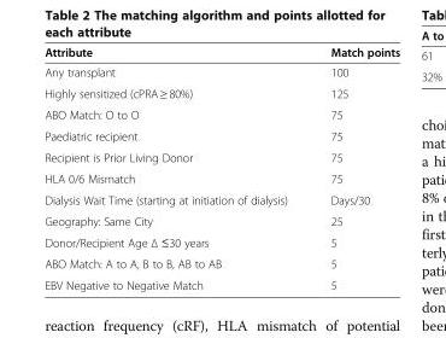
<table><thead><tr><td>Attribute</td><td>Match points</td></tr></thead><tbody><tr><td>Any transplant</td><td>100</td></tr><tr><td>Highly sensitized (cPRA ≥ 80%)</td><td>125</td></tr><tr><td>ABO Match: O to O</td><td>75</td></tr><tr><td>Paediatric recipient</td><td>75</td></tr><tr><td>Recipient is Prior Living Donor</td><td>75</td></tr><tr><td>HLA 0/6 Mismatch</td><td>75</td></tr><tr><td>Dialysis Wait Time (starting at initiation of dialysis)</td><td>Days/30</td></tr><tr><td>Geography: Same City</td><td>25</td></tr><tr><td>Donor/Recipient Age Δ ≤30 years</td><td>5</td></tr><tr><td>ABO Match: A to A, B to B, AB to AB</td><td>5</td></tr><tr><td>EBV Negative to Negative Match</td><td>5</td></tr></tbody></table>